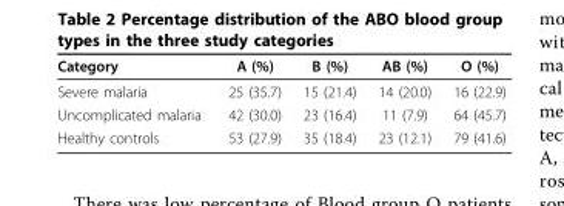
<table><thead><tr><td>Category</td><td>A (%)</td><td>B (%)</td><td>AB (%)</td><td>O (%)</td></tr></thead><tbody><tr><td>Severe malaria</td><td>25 (35.7)</td><td>15 (21.4)</td><td>14 (20.0)</td><td>16 (22.9)</td></tr><tr><td>Uncomplicated malaria</td><td>42 (30.0)</td><td>23 (16.4)</td><td>11 (7.9)</td><td>64 (45.7)</td></tr><tr><td>Healthy controls</td><td>53 (27.9)</td><td>35 (18.4)</td><td>23 (12.1)</td><td>79 (41.6)</td></tr></tbody></table>